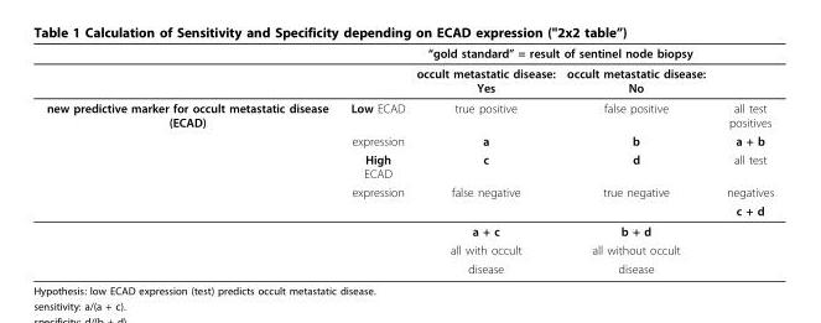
<table><thead><tr><td rowspan="2"></td><td rowspan="2"></td><td colspan="2">“gold standard” = result of sentinel node biopsy</td><td rowspan="2"></td></tr><tr><td>occult metastatic disease: Yes</td><td>occult metastatic disease: No</td></tr></thead><tbody><tr><td rowspan="8">new predictive marker for occult metastatic disease (ECAD)</td><td>Low ECAD</td><td>true positive</td><td>false positive</td><td>all test positives</td></tr><tr><td>expression</td><td>a</td><td>b</td><td>a + b</td></tr><tr><td>High ECAD</td><td>c</td><td>d</td><td>all test</td></tr><tr><td>expression</td><td>false negative</td><td>true negative</td><td>negatives</td></tr><tr><td></td><td></td><td></td><td>c + d</td></tr><tr><td></td><td>a + c</td><td>b + d</td><td></td></tr><tr><td></td><td>all with occult</td><td>all without occult</td><td></td></tr><tr><td></td><td>disease</td><td>disease</td><td></td></tr></tbody></table>